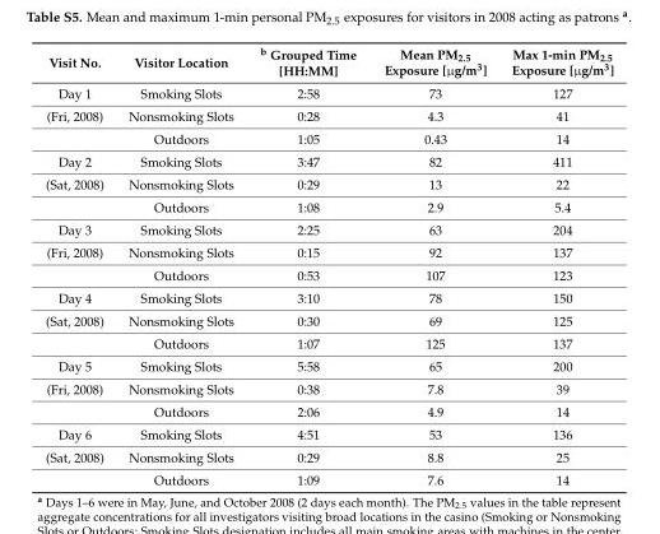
<table><thead><tr><td>Visit No.</td><td>Visitor Location</td><td><sup>b</sup> Grouped Time [HH:MM]</td><td>Mean PM<sub>2.5</sub> Exposure [µg/m<sup>3</sup>]</td><td>Max 1-min PM<sub>2.5</sub> Exposure [µg/m<sup>3</sup>]</td></tr></thead><tbody><tr><td>Day 1</td><td>Smoking Slots</td><td>2:58</td><td>73</td><td>127</td></tr><tr><td rowspan="2">(Fri, 2008)</td><td>Nonsmoking Slots</td><td>0:28</td><td>4.3</td><td>41</td></tr><tr><td>Outdoors</td><td>1:05</td><td>0.43</td><td>14</td></tr><tr><td>Day 2</td><td>Smoking Slots</td><td>3:47</td><td>82</td><td>411</td></tr><tr><td rowspan="2">(Sat, 2008)</td><td>Nonsmoking Slots</td><td>0:29</td><td>13</td><td>22</td></tr><tr><td>Outdoors</td><td>1:08</td><td>2.9</td><td>5.4</td></tr><tr><td>Day 3</td><td>Smoking Slots</td><td>2:25</td><td>63</td><td>204</td></tr><tr><td rowspan="2">(Fri, 2008)</td><td>Nonsmoking Slots</td><td>0:15</td><td>92</td><td>137</td></tr><tr><td>Outdoors</td><td>0:53</td><td>107</td><td>123</td></tr><tr><td>Day 4</td><td>Smoking Slots</td><td>3:10</td><td>78</td><td>150</td></tr><tr><td rowspan="2">(Sat, 2008)</td><td>Nonsmoking Slots</td><td>0:30</td><td>69</td><td>125</td></tr><tr><td>Outdoors</td><td>1:07</td><td>125</td><td>137</td></tr><tr><td>Day 5</td><td>Smoking Slots</td><td>5:58</td><td>65</td><td>200</td></tr><tr><td rowspan="2">(Fri, 2008)</td><td>Nonsmoking Slots</td><td>0:38</td><td>7.8</td><td>39</td></tr><tr><td>Outdoors</td><td>2:06</td><td>4.9</td><td>14</td></tr><tr><td>Day 6</td><td>Smoking Slots</td><td>4:51</td><td>53</td><td>136</td></tr><tr><td rowspan="2">(Sat, 2008)</td><td>Nonsmoking Slots</td><td>0:29</td><td>8.8</td><td>25</td></tr><tr><td>Outdoors</td><td>1:09</td><td>7.6</td><td>14</td></tr></tbody></table>